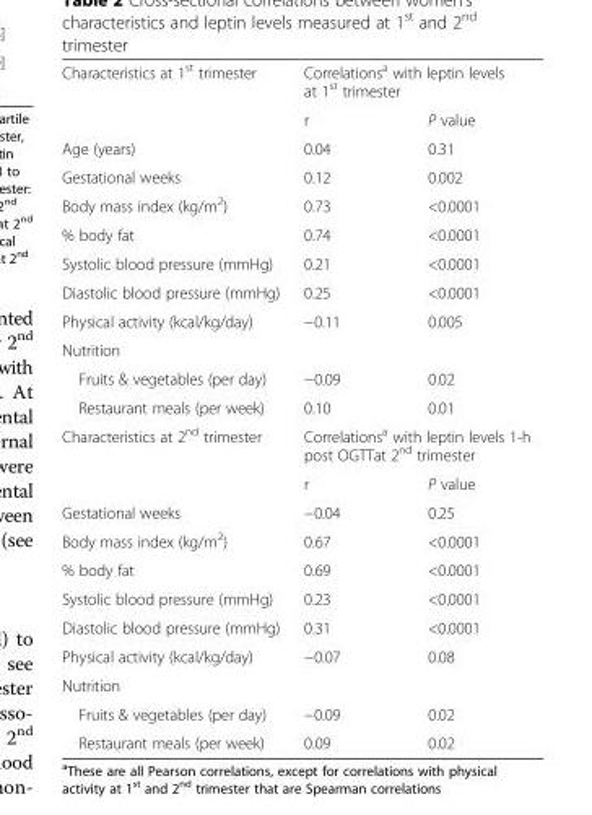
<table><tbody><tr><td rowspan="2">Characteristics at 1<sup>st</sup> trimester</td><td colspan="2">Correlations<sup>a</sup> with leptin levels at 1<sup>st</sup> trimester</td></tr><tr><td>r</td><td>P value</td></tr><tr><td>Age (years)</td><td>0.04</td><td>0.31</td></tr><tr><td>Gestational weeks</td><td>0.12</td><td>0.002</td></tr><tr><td>Body mass index (kg/m<sup>2</sup>)</td><td>0.73</td><td>&lt;0.0001</td></tr><tr><td>% body fat</td><td>0.74</td><td>&lt;0.0001</td></tr><tr><td>Systolic blood pressure (mmHg)</td><td>0.21</td><td>&lt;0.0001</td></tr><tr><td>Diastolic blood pressure (mmHg)</td><td>0.25</td><td>&lt;0.0001</td></tr><tr><td>Physical activity (kcal/kg/day)</td><td>−0.11</td><td>0.005</td></tr><tr><td colspan="3">Nutrition</td></tr><tr><td>Fruits &amp; vegetables (per day)</td><td>−0.09</td><td>0.02</td></tr><tr><td>Restaurant meals (per week)</td><td>0.10</td><td>0.01</td></tr><tr><td rowspan="2">Characteristics at 2<sup>nd</sup> trimester</td><td colspan="2">Correlations<sup>a</sup> with leptin levels 1-h post OGTTat 2<sup>nd</sup> trimester</td></tr><tr><td>r</td><td>P value</td></tr><tr><td>Gestational weeks</td><td>−0.04</td><td>0.25</td></tr><tr><td>Body mass index (kg/m<sup>2</sup>)</td><td>0.67</td><td>&lt;0.0001</td></tr><tr><td>% body fat</td><td>0.69</td><td>&lt;0.0001</td></tr><tr><td>Systolic blood pressure (mmHg)</td><td>0.23</td><td>&lt;0.0001</td></tr><tr><td>Diastolic blood pressure (mmHg)</td><td>0.31</td><td>&lt;0.0001</td></tr><tr><td>Physical activity (kcal/kg/day)</td><td>−0.07</td><td>0.08</td></tr><tr><td colspan="3">Nutrition</td></tr><tr><td>Fruits &amp; vegetables (per day)</td><td>−0.09</td><td>0.02</td></tr><tr><td>Restaurant meals (per week)</td><td>0.09</td><td>0.02</td></tr></tbody></table>